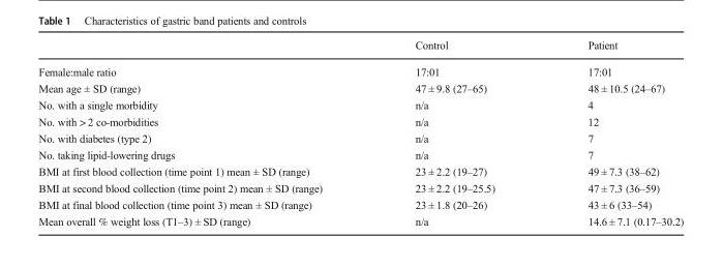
<table><thead><tr><td></td><td>Control</td><td>Patient</td></tr></thead><tbody><tr><td>Female:male ratio</td><td>17:01</td><td>17:01</td></tr><tr><td>Mean age ± SD (range)</td><td>47 ± 9.8 (27–65)</td><td>48 ± 10.5 (24–67)</td></tr><tr><td>No. with a single morbidity</td><td>n/a</td><td>4</td></tr><tr><td>No. with &gt; 2 co-morbidities</td><td>n/a</td><td>12</td></tr><tr><td>No. with diabetes (type 2)</td><td>n/a</td><td>7</td></tr><tr><td>No. taking lipid-lowering drugs</td><td>n/a</td><td>7</td></tr><tr><td>BMI at first blood collection (time point 1) mean ± SD (range)</td><td>23 ± 2.2 (19–27)</td><td>49 ± 7.3 (38–62)</td></tr><tr><td>BMI at second blood collection (time point 2) mean ± SD (range)</td><td>23 ± 2.2 (19–25.5)</td><td>47 ± 7.3 (36–59)</td></tr><tr><td>BMI at final blood collection (time point 3) mean ± SD (range)</td><td>23 ± 1.8 (20–26)</td><td>43 ± 6 (33–54)</td></tr><tr><td>Mean overall % weight loss (T1–3) ± SD (range)</td><td>n/a</td><td>14.6 ± 7.1 (0.17–30.2)</td></tr></tbody></table>